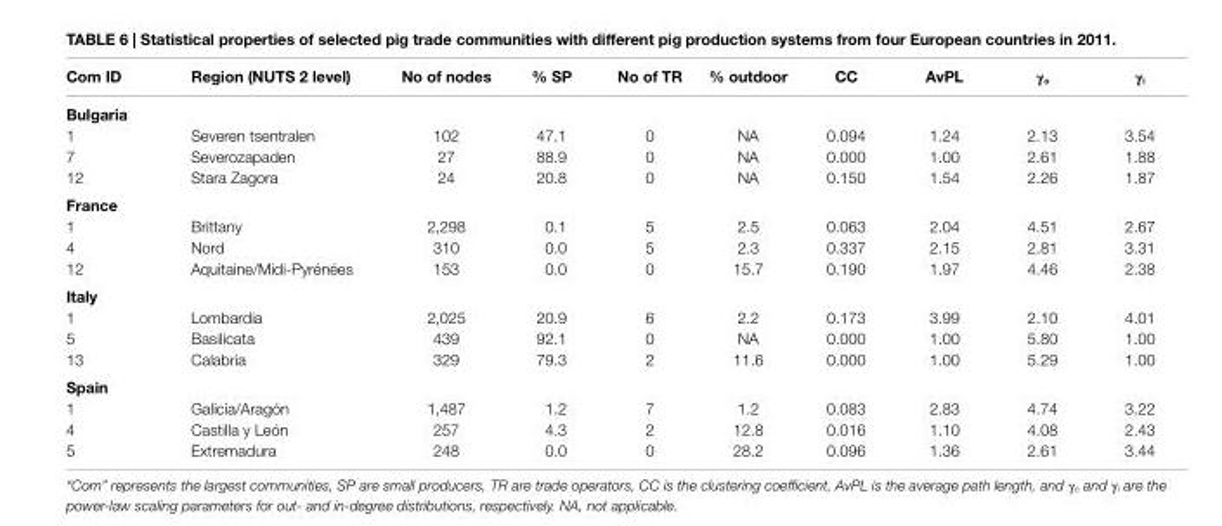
<table><thead><tr><td>com iD</td><td>region (nUTs 2 level)</td><td>no of nodes</td><td>% sP</td><td>no of Tr</td><td>% outdoor</td><td>cc</td><td>avPl</td><td>γ<sub>o</sub></td><td>γ<sub>i</sub></td></tr></thead><tbody><tr><td colspan="10">Bulgaria</td></tr><tr><td>1</td><td>Severen tsentralen</td><td>102</td><td>47.1</td><td>0</td><td>NA</td><td>0.094</td><td>1.24</td><td>2.13</td><td>3.54</td></tr><tr><td>7</td><td>Severozapaden</td><td>27</td><td>88.9</td><td>0</td><td>NA</td><td>0.000</td><td>1.00</td><td>2.61</td><td>1.88</td></tr><tr><td>12</td><td>Stara Zagora</td><td>24</td><td>20.8</td><td>0</td><td>NA</td><td>0.150</td><td>1.54</td><td>2.26</td><td>1.87</td></tr><tr><td colspan="10">France</td></tr><tr><td>1</td><td>Brittany</td><td>2,298</td><td>0.1</td><td>5</td><td>2.5</td><td>0.063</td><td>2.04</td><td>4.51</td><td>2.67</td></tr><tr><td>4</td><td>Nord</td><td>310</td><td>0.0</td><td>5</td><td>2.3</td><td>0.337</td><td>2.15</td><td>2.81</td><td>3.31</td></tr><tr><td>12</td><td>Aquitaine/Midi-Pyrénées</td><td>153</td><td>0.0</td><td>0</td><td>15.7</td><td>0.190</td><td>1.97</td><td>4.46</td><td>2.38</td></tr><tr><td colspan="10">italy</td></tr><tr><td>1</td><td>Lombardia</td><td>2,025</td><td>20.9</td><td>6</td><td>2.2</td><td>0.173</td><td>3.99</td><td>2.10</td><td>4.01</td></tr><tr><td>5</td><td>Basilicata</td><td>439</td><td>92.1</td><td>0</td><td>NA</td><td>0.000</td><td>1.00</td><td>5.80</td><td>1.00</td></tr><tr><td>13</td><td>Calabria</td><td>329</td><td>79.3</td><td>2</td><td>11.6</td><td>0.000</td><td>1.00</td><td>5.29</td><td>1.00</td></tr><tr><td colspan="10">spain</td></tr><tr><td>1</td><td>Galicia/Aragón</td><td>1,487</td><td>1.2</td><td>7</td><td>1.2</td><td>0.083</td><td>2.83</td><td>4.74</td><td>3.22</td></tr><tr><td>4</td><td>Castilla y León</td><td>257</td><td>4.3</td><td>2</td><td>12.8</td><td>0.016</td><td>1.10</td><td>4.08</td><td>2.43</td></tr><tr><td>5</td><td>Extremadura</td><td>248</td><td>0.0</td><td>0</td><td>28.2</td><td>0.096</td><td>1.36</td><td>2.61</td><td>3.44</td></tr></tbody></table>